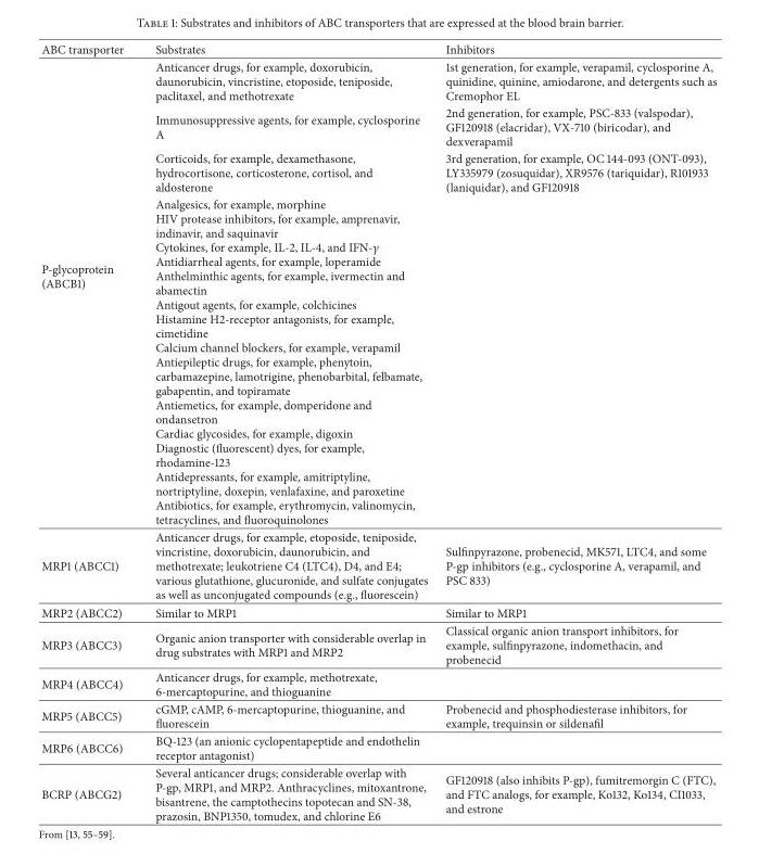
<table><thead><tr><td>ABC transporter</td><td>Substrates</td><td>Inhibitors</td></tr></thead><tbody><tr><td rowspan="4">P-glycoprotein (ABCB1)</td><td>Anticancer drugs, for example, doxorubicin, daunorubicin, vincristine, etoposide, teniposide, paclitaxel, and methotrexate</td><td>1st generation, for example, verapamil, cyclosporine A, quinidine, quinine, amiodarone, and detergents such as Cremophor EL</td></tr><tr><td>Immunosuppressive agents, for example, cyclosporine A</td><td>2nd generation, for example, PSC-833 (valspodar), GF120918 (elacridar), VX-710 (biricodar), and dexverapamil</td></tr><tr><td>Corticoids, for example, dexamethasone, hydrocortisone, corticosterone, cortisol, and aldosterone</td><td>3rd generation, for example, OC 144-093 (ONT-093), LY335979 (zosuquidar), XR9576 (tariquidar), R101933 (laniquidar), and GF120918</td></tr><tr><td>Analgesics, for example, morphine HIV protease inhibitors, for example, amprenavir, indinavir, and saquinavir Cytokines, for example, IL-2, IL-4, and IFN-𝛾 Antidiarrheal agents, for example, loperamide Anthelminthic agents, for example, ivermectin and abamectin Antigout agents, for example, colchicines Histamine H2-receptor antagonists, for example, cimetidine Calcium channel blockers, for example, verapamil Antiepileptic drugs, for example, phenytoin, carbamazepine, lamotrigine, phenobarbital, felbamate, gabapentin, and topiramate Antiemetics, for example, domperidone and ondansetron Cardiac glycosides, for example, digoxin Diagnostic (fluorescent) dyes, for example, rhodamine-123 Antidepressants, for example, amitriptyline, nortriptyline, doxepin, venlafaxine, and paroxetine Antibiotics, for example, erythromycin, valinomycin, tetracyclines, and fluoroquinolones</td><td></td></tr><tr><td>MRP1 (ABCC1)</td><td>Anticancer drugs, for example, etoposide, teniposide, vincristine, doxorubicin, daunorubicin, and methotrexate; leukotriene C4 (LTC4), D4, and E4; various glutathione, glucuronide, and sulfate conjugates as well as unconjugated compounds (e.g., fluorescein)</td><td>Sulfinpyrazone, probenecid, MK571, LTC4, and some P-gp inhibitors (e.g., cyclosporine A, verapamil, and PSC 833)</td></tr><tr><td>MRP2 (ABCC2)</td><td>Similar to MRP1</td><td>Similar to MRP1</td></tr><tr><td>MRP3 (ABCC3)</td><td>Organic anion transporter with considerable overlap in drug substrates with MRP1 and MRP2</td><td>Classical organic anion transport inhibitors, for example, sulfinpyrazone, indomethacin, and probenecid</td></tr><tr><td>MRP4 (ABCC4)</td><td>Anticancer drugs, for example, methotrexate, 6-mercaptopurine, and thioguanine</td><td></td></tr><tr><td>MRP5 (ABCC5)</td><td>cGMP, cAMP, 6-mercaptopurine, thioguanine, and fluorescein</td><td>Probenecid and phosphodiesterase inhibitors, for example, trequinsin or sildenafil</td></tr><tr><td>MRP6 (ABCC6)</td><td>BQ-123 (an anionic cyclopentapeptide and endothelin receptor antagonist)</td><td></td></tr><tr><td>BCRP (ABCG2)</td><td>Several anticancer drugs; considerable overlap with P-gp, MRP1, and MRP2. Anthracyclines, mitoxantrone, bisantrene, the camptothecins topotecan and SN-38, prazosin, BNP1350, tomudex, and chlorine E6</td><td>GF120918 (also inhibits P-gp), fumitremorgin C (FTC), and FTC analogs, for example, Ko132, Ko134, CI1033, and estrone</td></tr></tbody></table>